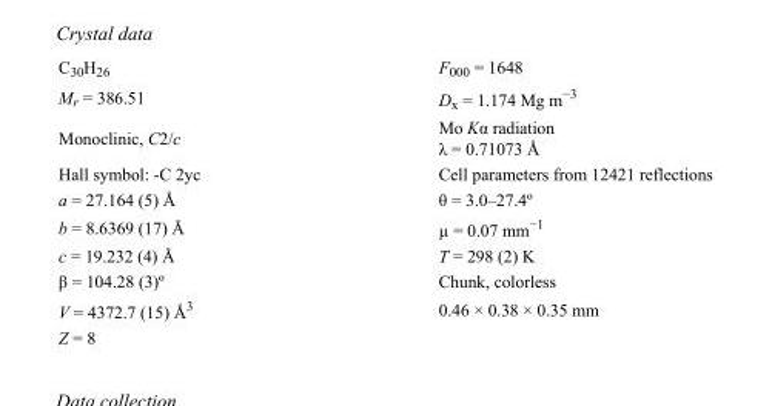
<table><tbody><tr><td>C<sub>30</sub>H<sub>26</sub></td><td>F<sub>000</sub> = 1648</td></tr><tr><td>M<sub>r</sub> = 386.51</td><td>D<sub>x</sub> = 1.174 Mg m<sup>−3</sup></td></tr><tr><td>Monoclinic, C2/c</td><td>Mo Kα radiation λ = 0.71073 Å</td></tr><tr><td>Hall symbol: -C 2yc</td><td>Cell parameters from 12421 reflections</td></tr><tr><td>a = 27.164 (5) Å</td><td>θ = 3.0–27.4º</td></tr><tr><td>b = 8.6369 (17) Å</td><td>µ = 0.07 mm<sup>−1</sup></td></tr><tr><td>c = 19.232 (4) Å</td><td>T = 298 (2) K</td></tr><tr><td>β = 104.28 (3)º</td><td>Chunk, colorless</td></tr><tr><td>V = 4372.7 (15) Å<sup>3</sup></td><td>0.46 × 0.38 × 0.35 mm</td></tr><tr><td>Z = 8</td><td></td></tr></tbody></table>